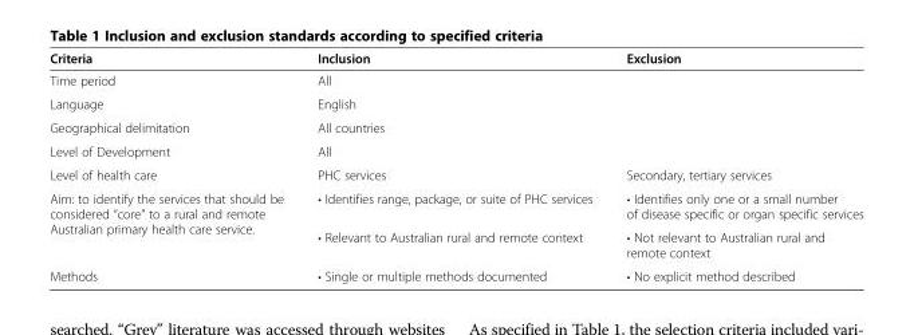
<table><thead><tr><td>Criteria</td><td>Inclusion</td><td>Exclusion</td></tr></thead><tbody><tr><td>Time period</td><td>All</td><td></td></tr><tr><td>Language</td><td>English</td><td></td></tr><tr><td>Geographical delimitation</td><td>All countries</td><td></td></tr><tr><td>Level of Development</td><td>All</td><td></td></tr><tr><td>Level of health care</td><td>PHC services</td><td>Secondary, tertiary services</td></tr><tr><td rowspan="2">Aim: to identify the services that should be considered “core” to a rural and remote Australian primary health care service.</td><td>• Identifies range, package, or suite of PHC services</td><td>• Identifies only one or a small number of disease specific or organ specific services</td></tr><tr><td>• Relevant to Australian rural and remote context</td><td>• Not relevant to Australian rural and remote context</td></tr><tr><td>Methods</td><td>• Single or multiple methods documented</td><td>• No explicit method described</td></tr></tbody></table>